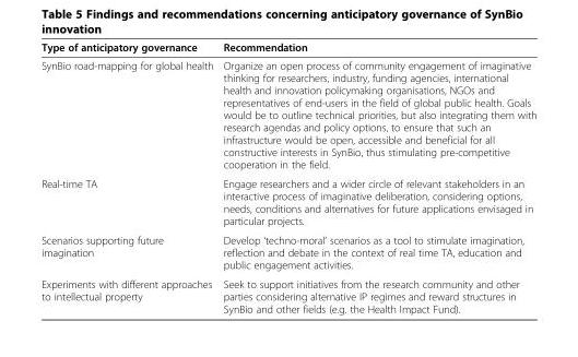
<table><thead><tr><td>Type of anticipatory governance</td><td>Recommendation</td></tr></thead><tbody><tr><td>SynBio road-mapping for global health</td><td>Organize an open process of community engagement of imaginative thinking for researchers, industry, funding agencies, international health and innovation policymaking organisations, NGOs and representatives of end-users in the field of global public health. Goals would be to outline technical priorities, but also integrating them with research agendas and policy options, to ensure that such an infrastructure would be open, accessible and beneficial for all constructive interests in SynBio, thus stimulating pre-competitive cooperation in the field.</td></tr><tr><td>Real-time TA</td><td>Engage researchers and a wider circle of relevant stakeholders in an interactive process of imaginative deliberation, considering options, needs, conditions and alternatives for future applications envisaged in particular projects.</td></tr><tr><td>Scenarios supporting future imagination</td><td>Develop ‘techno-moral’ scenarios as a tool to stimulate imagination, reflection and debate in the context of real time TA, education and public engagement activities.</td></tr><tr><td>Experiments with different approaches to intellectual property</td><td>Seek to support initiatives from the research community and other parties considering alternative IP regimes and reward structures in SynBio and other fields (e.g. the Health Impact Fund).</td></tr></tbody></table>